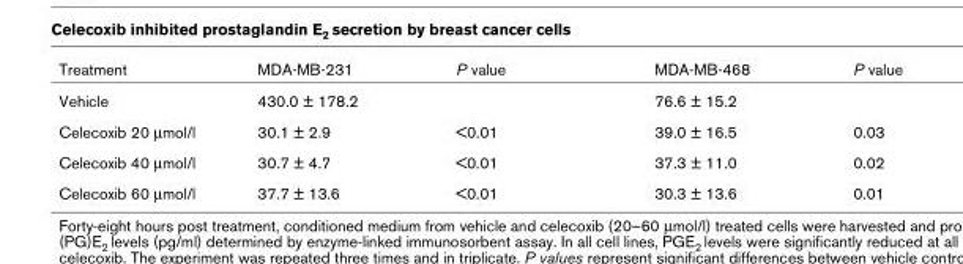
<table><thead><tr><td>Treatment</td><td>MDA-MB-231</td><td>P value</td><td>MDA-MB-468</td><td>P value</td></tr></thead><tbody><tr><td>Vehicle</td><td>430.0 ± 178.2</td><td></td><td>76.6 ± 15.2</td><td></td></tr><tr><td>Celecoxib 20 µmol/l</td><td>30.1 ± 2.9</td><td>&lt;0.01</td><td>39.0 ± 16.5</td><td>0.03</td></tr><tr><td>Celecoxib 40 µmol/l</td><td>30.7 ± 4.7</td><td>&lt;0.01</td><td>37.3 ± 11.0</td><td>0.02</td></tr><tr><td>Celecoxib 60 µmol/l</td><td>37.7 ± 13.6</td><td>&lt;0.01</td><td>30.3 ± 13.6</td><td>0.01</td></tr></tbody></table>